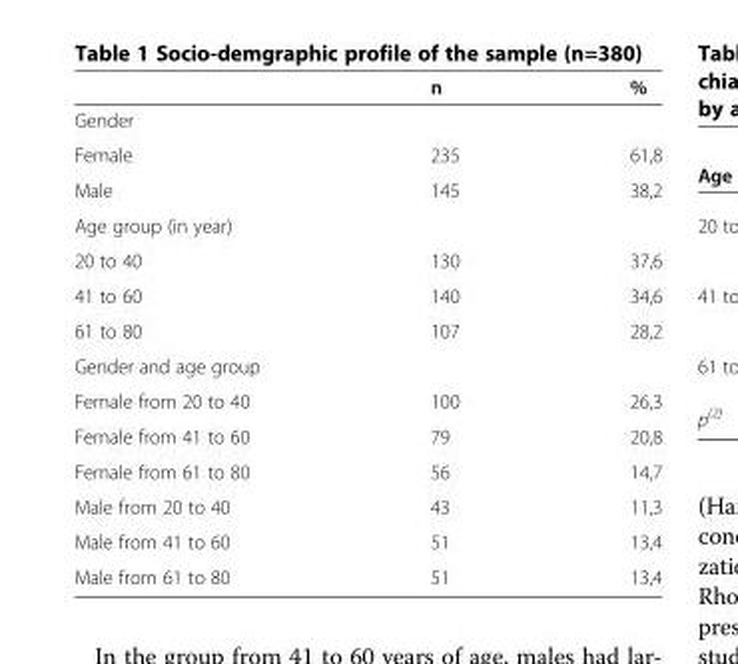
<table><thead><tr><td></td><td>n</td><td>%</td></tr></thead><tbody><tr><td colspan="3">Gender</td></tr><tr><td>Female</td><td>235</td><td>61,8</td></tr><tr><td>Male</td><td>145</td><td>38,2</td></tr><tr><td colspan="3">Age group (in year)</td></tr><tr><td>20 to 40</td><td>130</td><td>37,6</td></tr><tr><td>41 to 60</td><td>140</td><td>34,6</td></tr><tr><td>61 to 80</td><td>107</td><td>28,2</td></tr><tr><td colspan="3">Gender and age group</td></tr><tr><td>Female from 20 to 40</td><td>100</td><td>26,3</td></tr><tr><td>Female from 41 to 60</td><td>79</td><td>20,8</td></tr><tr><td>Female from 61 to 80</td><td>56</td><td>14,7</td></tr><tr><td>Male from 20 to 40</td><td>43</td><td>11,3</td></tr><tr><td>Male from 41 to 60</td><td>51</td><td>13,4</td></tr><tr><td>Male from 61 to 80</td><td>51</td><td>13,4</td></tr></tbody></table>